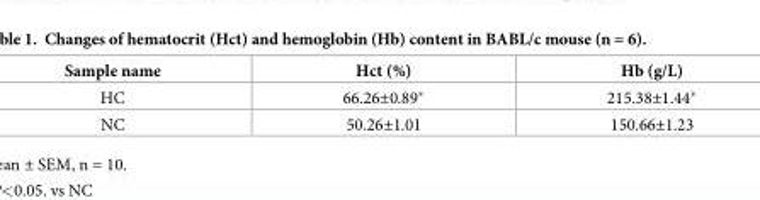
<table><thead><tr><td>Sample name</td><td>Hct (%)</td><td>Hb (g/L)</td></tr></thead><tbody><tr><td>HC</td><td>66.26±0.89*</td><td>215.38±1.44*</td></tr><tr><td>NC</td><td>50.26±1.01</td><td>150.66±1.23</td></tr></tbody></table>